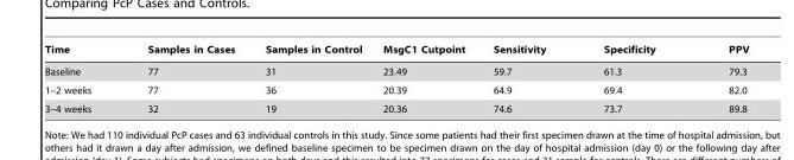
<table><thead><tr><td>Time</td><td>Samples in Cases</td><td>Samples in Control</td><td>MsgC1 Cutpoint</td><td>Sensitivity</td><td>Specificity</td><td>PPV</td></tr></thead><tbody><tr><td>Baseline</td><td>77</td><td>31</td><td>23.49</td><td>59.7</td><td>61.3</td><td>79.3</td></tr><tr><td>1–2 weeks</td><td>77</td><td>36</td><td>20.39</td><td>64.9</td><td>69.4</td><td>82.0</td></tr><tr><td>3–4 weeks</td><td>32</td><td>19</td><td>20.36</td><td>74.6</td><td>73.7</td><td>89.8</td></tr></tbody></table>